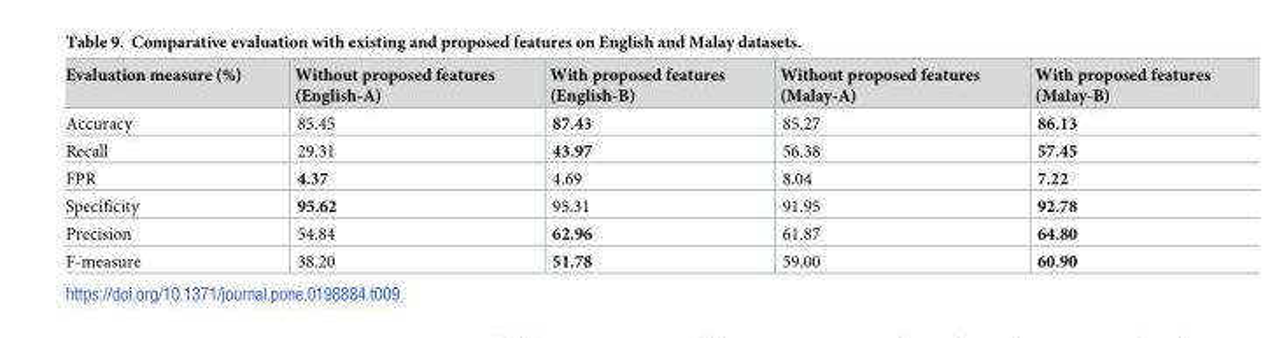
<table><thead><tr><td>Evaluation measure (%)</td><td>Without proposed features (English-A)</td><td>With proposed features (English-B)</td><td>Without proposed features (Malay-A)</td><td>With proposed features (Malay-B)</td></tr></thead><tbody><tr><td>Accuracy</td><td>85.45</td><td>87.43</td><td>85.27</td><td>86.13</td></tr><tr><td>Recall</td><td>29.31</td><td>43.97</td><td>56.38</td><td>57.45</td></tr><tr><td>FPR</td><td>4.37</td><td>4.69</td><td>8.04</td><td>7.22</td></tr><tr><td>Specificity</td><td>95.62</td><td>95.31</td><td>91.95</td><td>92.78</td></tr><tr><td>Precision</td><td>54.84</td><td>62.96</td><td>61.87</td><td>64.80</td></tr><tr><td>F-measure</td><td>38.20</td><td>51.78</td><td>59.00</td><td>60.90</td></tr></tbody></table>